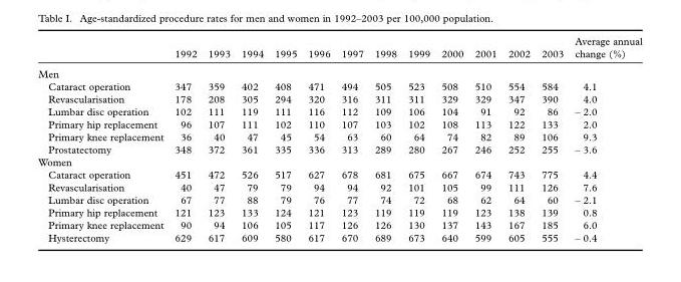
<table><thead><tr><td></td><td>1992</td><td>1993</td><td>1994</td><td>1995</td><td>1996</td><td>1997</td><td>1998</td><td>1999</td><td>2000</td><td>2001</td><td>2002</td><td>2003</td><td>Average annual change (%)</td></tr></thead><tbody><tr><td colspan="14">Men</td></tr><tr><td>Cataract operation</td><td>347</td><td>359</td><td>402</td><td>408</td><td>471</td><td>494</td><td>505</td><td>523</td><td>508</td><td>510</td><td>554</td><td>584</td><td>4.1</td></tr><tr><td>Revascularisation</td><td>178</td><td>208</td><td>305</td><td>294</td><td>320</td><td>316</td><td>311</td><td>311</td><td>329</td><td>329</td><td>347</td><td>390</td><td>4.0</td></tr><tr><td>Lumbar disc operation</td><td>102</td><td>111</td><td>119</td><td>111</td><td>116</td><td>112</td><td>109</td><td>106</td><td>104</td><td>91</td><td>92</td><td>86</td><td>– 2.0</td></tr><tr><td>Primary hip replacement</td><td>96</td><td>107</td><td>111</td><td>102</td><td>110</td><td>107</td><td>103</td><td>102</td><td>108</td><td>113</td><td>122</td><td>133</td><td>2.0</td></tr><tr><td>Primary knee replacement</td><td>36</td><td>40</td><td>47</td><td>45</td><td>54</td><td>63</td><td>60</td><td>64</td><td>74</td><td>82</td><td>89</td><td>106</td><td>9.3</td></tr><tr><td>Prostatectomy</td><td>348</td><td>372</td><td>361</td><td>335</td><td>336</td><td>313</td><td>289</td><td>280</td><td>267</td><td>246</td><td>252</td><td>255</td><td>– 3.6</td></tr><tr><td colspan="14">Women</td></tr><tr><td>Cataract operation</td><td>451</td><td>472</td><td>526</td><td>517</td><td>627</td><td>678</td><td>681</td><td>675</td><td>667</td><td>674</td><td>743</td><td>775</td><td>4.4</td></tr><tr><td>Revascularisation</td><td>40</td><td>47</td><td>79</td><td>79</td><td>94</td><td>94</td><td>92</td><td>101</td><td>105</td><td>99</td><td>111</td><td>126</td><td>7.6</td></tr><tr><td>Lumbar disc operation</td><td>67</td><td>77</td><td>88</td><td>79</td><td>76</td><td>77</td><td>74</td><td>72</td><td>68</td><td>62</td><td>64</td><td>60</td><td>– 2.1</td></tr><tr><td>Primary hip replacement</td><td>121</td><td>123</td><td>133</td><td>124</td><td>121</td><td>123</td><td>119</td><td>119</td><td>119</td><td>123</td><td>138</td><td>139</td><td>0.8</td></tr><tr><td>Primary knee replacement</td><td>90</td><td>94</td><td>106</td><td>105</td><td>117</td><td>126</td><td>126</td><td>130</td><td>137</td><td>143</td><td>167</td><td>185</td><td>6.0</td></tr><tr><td>Hysterectomy</td><td>629</td><td>617</td><td>609</td><td>580</td><td>617</td><td>670</td><td>689</td><td>673</td><td>640</td><td>599</td><td>605</td><td>555</td><td>– 0.4</td></tr></tbody></table>